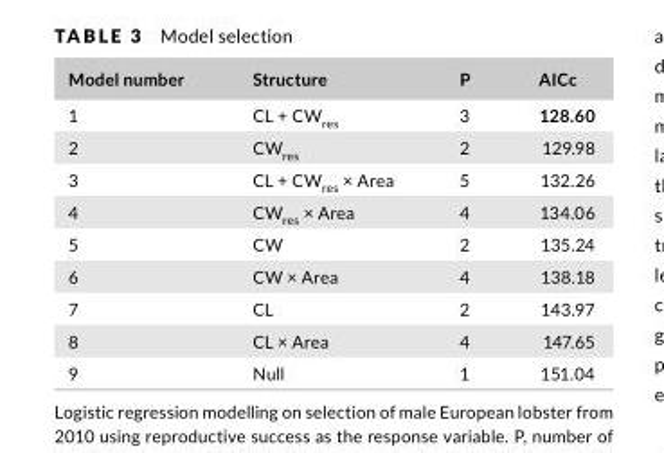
<table><thead><tr><td>Model number</td><td>Structure</td><td>P</td><td>AICc</td></tr></thead><tbody><tr><td>1</td><td>CL + CW<sub>res</sub></td><td>3</td><td>128.60</td></tr><tr><td>2</td><td>CW<sub>res</sub></td><td>2</td><td>129.98</td></tr><tr><td>3</td><td>CL + CW<sub>res</sub> × Area</td><td>5</td><td>132.26</td></tr><tr><td>4</td><td>CW<sub>res</sub> × Area</td><td>4</td><td>134.06</td></tr><tr><td>5</td><td>CW</td><td>2</td><td>135.24</td></tr><tr><td>6</td><td>CW × Area</td><td>4</td><td>138.18</td></tr><tr><td>7</td><td>CL</td><td>2</td><td>143.97</td></tr><tr><td>8</td><td>CL × Area</td><td>4</td><td>147.65</td></tr><tr><td>9</td><td>Null</td><td>1</td><td>151.04</td></tr></tbody></table>